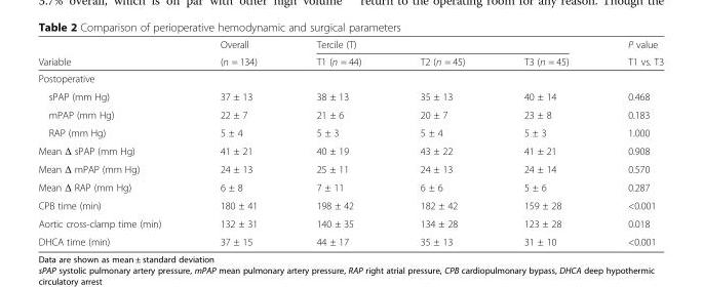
<table><thead><tr><td rowspan="2">Variable</td><td rowspan="2">Overall (n = 134)</td><td colspan="3">Tercile (T)</td><td rowspan="2">P value T1 vs. T3</td></tr><tr><td>T1 (n = 44)</td><td>T2 (n = 45)</td><td>T3 (n = 45)</td></tr></thead><tbody><tr><td colspan="6">Postoperative</td></tr><tr><td>sPAP (mm Hg)</td><td>37 ± 13</td><td>38 ± 13</td><td>35 ± 13</td><td>40 ± 14</td><td>0.468</td></tr><tr><td>mPAP (mm Hg)</td><td>22 ± 7</td><td>21 ± 6</td><td>20 ± 7</td><td>23 ± 8</td><td>0.183</td></tr><tr><td>RAP (mm Hg)</td><td>5 ± 4</td><td>5 ± 3</td><td>5 ± 4</td><td>5 ± 3</td><td>1.000</td></tr><tr><td>Mean Δ sPAP (mm Hg)</td><td>41 ± 21</td><td>40 ± 19</td><td>43 ± 22</td><td>41 ± 21</td><td>0.908</td></tr><tr><td>Mean Δ mPAP (mm Hg)</td><td>24 ± 13</td><td>25 ± 11</td><td>24 ± 13</td><td>24 ± 14</td><td>0.570</td></tr><tr><td>Mean Δ RAP (mm Hg)</td><td>6 ± 8</td><td>7 ± 11</td><td>6 ± 6</td><td>5 ± 6</td><td>0.287</td></tr><tr><td>CPB time (min)</td><td>180 ± 41</td><td>198 ± 42</td><td>182 ± 42</td><td>159 ± 28</td><td>&lt;0.001</td></tr><tr><td>Aortic cross-clamp time (min)</td><td>132 ± 31</td><td>140 ± 35</td><td>134 ± 28</td><td>123 ± 28</td><td>0.018</td></tr><tr><td>DHCA time (min)</td><td>37 ± 15</td><td>44 ± 17</td><td>35 ± 13</td><td>31 ± 10</td><td>&lt;0.001</td></tr></tbody></table>